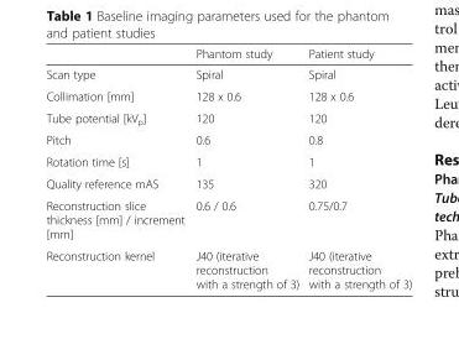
<table><thead><tr><td></td><td>Phantom study</td><td>Patient study</td></tr></thead><tbody><tr><td>Scan type</td><td>Spiral</td><td>Spiral</td></tr><tr><td>Collimation [mm]</td><td>128 x 0.6</td><td>128 x 0.6</td></tr><tr><td>Tube potential [kV<sub>p</sub>]</td><td>120</td><td>120</td></tr><tr><td>Pitch</td><td>0.6</td><td>0.8</td></tr><tr><td>Rotation time [s]</td><td>1</td><td>1</td></tr><tr><td>Quality reference mAS</td><td>135</td><td>320</td></tr><tr><td>Reconstruction slice thickness [mm] / increment [mm]</td><td>0.6 / 0.6</td><td>0.75/0.7</td></tr><tr><td>Reconstruction kernel</td><td>J40 (iterative reconstruction with a strength of 3)</td><td>J40 (iterative reconstruction with a strength of 3)</td></tr></tbody></table>